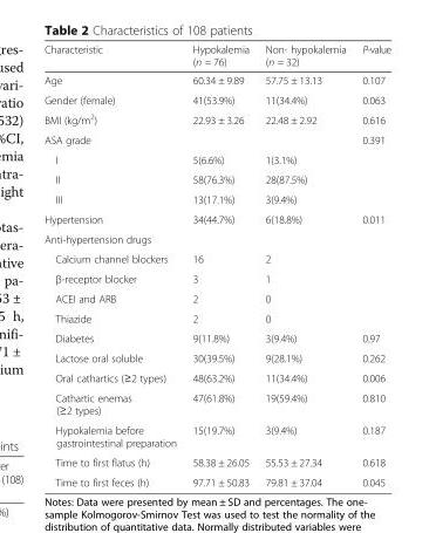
<table><thead><tr><td>Characteristic</td><td>Hypokalemia (n = 76)</td><td>Non- hypokalemia (n = 32)</td><td>P-value</td></tr></thead><tbody><tr><td>Age</td><td>60.34 ± 9.89</td><td>57.75 ± 13.13</td><td>0.107</td></tr><tr><td>Gender (female)</td><td>41(53.9%)</td><td>11(34.4%)</td><td>0.063</td></tr><tr><td>BMI (kg/m<sup>2</sup>)</td><td>22.93 ± 3.26</td><td>22.48 ± 2.92</td><td>0.616</td></tr><tr><td>ASA grade</td><td></td><td></td><td>0.391</td></tr><tr><td>I</td><td>5(6.6%)</td><td>1(3.1%)</td><td></td></tr><tr><td>II</td><td>58(76.3%)</td><td>28(87.5%)</td><td></td></tr><tr><td>III</td><td>13(17.1%)</td><td>3(9.4%)</td><td></td></tr><tr><td>Hypertension</td><td>34(44.7%)</td><td>6(18.8%)</td><td>0.011</td></tr><tr><td colspan="4">Anti-hypertension drugs</td></tr><tr><td>Calcium channel blockers</td><td>16</td><td>2</td><td></td></tr><tr><td>β-receptor blocker</td><td>3</td><td>1</td><td></td></tr><tr><td>ACEI and ARB</td><td>2</td><td>0</td><td></td></tr><tr><td>Thiazide</td><td>2</td><td>0</td><td></td></tr><tr><td>Diabetes</td><td>9(11.8%)</td><td>3(9.4%)</td><td>0.97</td></tr><tr><td>Lactose oral soluble</td><td>30(39.5%)</td><td>9(28.1%)</td><td>0.262</td></tr><tr><td>Oral cathartics (≥2 types)</td><td>48(63.2%)</td><td>11(34.4%)</td><td>0.006</td></tr><tr><td>Cathartic enemas (≥2 types)</td><td>47(61.8%)</td><td>19(59.4%)</td><td>0.810</td></tr><tr><td>Hypokalemia before gastrointestinal preparation</td><td>15(19.7%)</td><td>3(9.4%)</td><td>0.187</td></tr><tr><td>Time to first flatus (h)</td><td>58.38 ± 26.05</td><td>55.53 ± 27.34</td><td>0.618</td></tr><tr><td>Time to first feces (h)</td><td>97.71 ± 50.83</td><td>79.81 ± 37.04</td><td>0.045</td></tr></tbody></table>